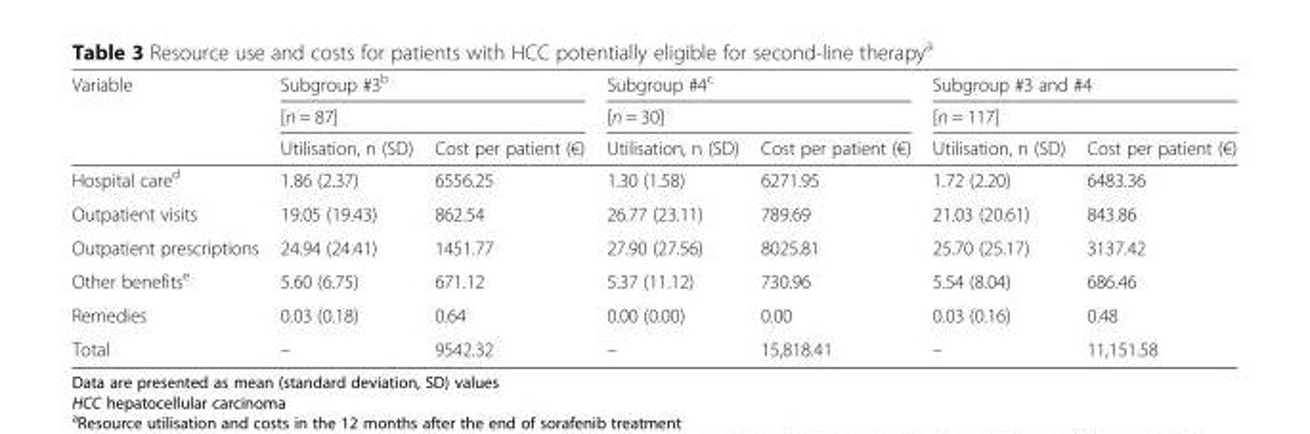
<table><thead><tr><td rowspan="3">Variable</td><td rowspan="2" colspan="2">Subgroup #3<sup>b</sup> [n = 87]</td><td rowspan="2" colspan="2">Subgroup #4<sup>c</sup> [n = 30]</td><td rowspan="2" colspan="2">Subgroup #3 and #4 [n = 117]</td></tr><tr></tr><tr><td>Utilisation, n (SD)</td><td>Cost per patient (€)</td><td>Utilisation, n (SD)</td><td>Cost per patient (€)</td><td>Utilisation, n (SD)</td><td>Cost per patient (€)</td></tr></thead><tbody><tr><td>Hospital care<sup>d</sup></td><td>1.86 (2.37)</td><td>6556.25</td><td>1.30 (1.58)</td><td>6271.95</td><td>1.72 (2.20)</td><td>6483.36</td></tr><tr><td>Outpatient visits</td><td>19.05 (19.43)</td><td>862.54</td><td>26.77 (23.11)</td><td>789.69</td><td>21.03 (20.61)</td><td>843.86</td></tr><tr><td>Outpatient prescriptions</td><td>24.94 (24.41)</td><td>1451.77</td><td>27.90 (27.56)</td><td>8025.81</td><td>25.70 (25.17)</td><td>3137.42</td></tr><tr><td>Other benefits<sup>e</sup></td><td>5.60 (6.75)</td><td>671.12</td><td>5.37 (11.12)</td><td>730.96</td><td>5.54 (8.04)</td><td>686.46</td></tr><tr><td>Remedies</td><td>0.03 (0.18)</td><td>0.64</td><td>0.00 (0.00)</td><td>0.00</td><td>0.03 (0.16)</td><td>0.48</td></tr><tr><td>Total</td><td>–</td><td>9542.32</td><td>–</td><td>15,818.41</td><td>–</td><td>11,151.58</td></tr></tbody></table>